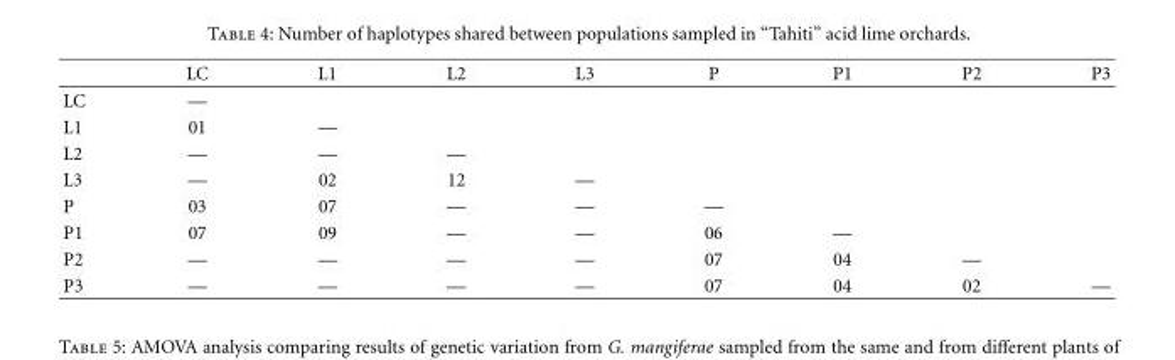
<table><thead><tr><td></td><td>LC</td><td>L1</td><td>L2</td><td>L3</td><td>P</td><td>P1</td><td>P2</td><td>P3</td></tr></thead><tbody><tr><td>LC</td><td>—</td><td></td><td></td><td></td><td></td><td></td><td></td><td></td></tr><tr><td>L1</td><td>01</td><td>—</td><td></td><td></td><td></td><td></td><td></td><td></td></tr><tr><td>L2</td><td>—</td><td>—</td><td>—</td><td></td><td></td><td></td><td></td><td></td></tr><tr><td>L3</td><td>—</td><td>02</td><td>12</td><td>—</td><td></td><td></td><td></td><td></td></tr><tr><td>P</td><td>03</td><td>07</td><td>—</td><td>—</td><td>—</td><td></td><td></td><td></td></tr><tr><td>P1</td><td>07</td><td>09</td><td>—</td><td>—</td><td>06</td><td>—</td><td></td><td></td></tr><tr><td>P2</td><td>—</td><td>—</td><td>—</td><td>—</td><td>07</td><td>04</td><td>—</td><td></td></tr><tr><td>P3</td><td>—</td><td>—</td><td>—</td><td>—</td><td>07</td><td>04</td><td>02</td><td>—</td></tr></tbody></table>